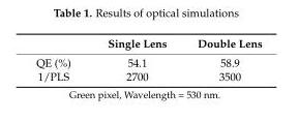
<table><thead><tr><td></td><td>Single Lens</td><td>Double Lens</td></tr></thead><tbody><tr><td>QE (%)</td><td>54.1</td><td>58.9</td></tr><tr><td>1/PLS</td><td>2700</td><td>3500</td></tr></tbody></table>